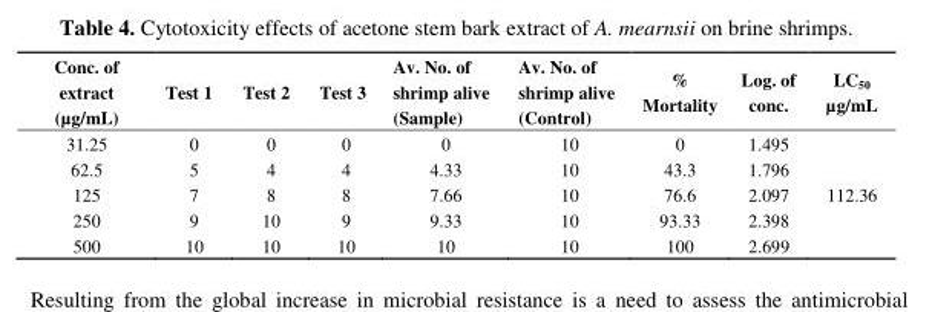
<table><thead><tr><td>Conc. of extract (µg/mL)</td><td>Test 1</td><td>Test 2</td><td>Test 3</td><td>Av. No. of shrimp alive (Sample)</td><td>Av. No. of shrimp alive (Control)</td><td>% Mortality</td><td>Log. of conc.</td><td>LC<sub>50</sub> µg/mL</td></tr></thead><tbody><tr><td>31.25</td><td>0</td><td>0</td><td>0</td><td>0</td><td>10</td><td>0</td><td>1.495</td><td></td></tr><tr><td>62.5</td><td>5</td><td>4</td><td>4</td><td>4.33</td><td>10</td><td>43.3</td><td>1.796</td><td></td></tr><tr><td>125</td><td>7</td><td>8</td><td>8</td><td>7.66</td><td>10</td><td>76.6</td><td>2.097</td><td>112.36</td></tr><tr><td>250</td><td>9</td><td>10</td><td>9</td><td>9.33</td><td>10</td><td>93.33</td><td>2.398</td><td></td></tr><tr><td>500</td><td>10</td><td>10</td><td>10</td><td>10</td><td>10</td><td>100</td><td>2.699</td><td></td></tr></tbody></table>